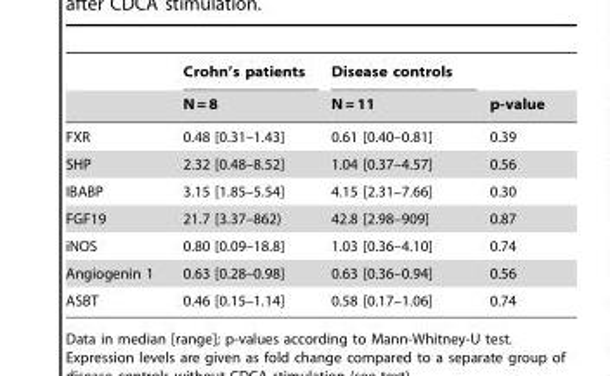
<table><thead><tr><td rowspan="2"></td><td rowspan="2">Crohn’s patients N = 8</td><td rowspan="2">Disease controls N = 11</td><td rowspan="2">p-value</td></tr><tr></tr></thead><tbody><tr><td>FXR</td><td>0.48 [0.31–1.43]</td><td>0.61 [0.40–0.81]</td><td>0.39</td></tr><tr><td>SHP</td><td>2.32 [0.48–8.52]</td><td>1.04 [0.37–4.57]</td><td>0.56</td></tr><tr><td>IBABP</td><td>3.15 [1.85–5.54]</td><td>4.15 [2.31–7.66]</td><td>0.30</td></tr><tr><td>FGF19</td><td>21.7 [3.37–862)</td><td>42.8 [2.98–909]</td><td>0.87</td></tr><tr><td>iNOS</td><td>0.80 [0.09–18.8]</td><td>1.03 [0.36–4.10]</td><td>0.74</td></tr><tr><td>Angiogenin 1</td><td>0.63 [0.28–0.98]</td><td>0.63 [0.36–0.94]</td><td>0.56</td></tr><tr><td>ASBT</td><td>0.46 [0.15–1.14]</td><td>0.58 [0.17–1.06]</td><td>0.74</td></tr></tbody></table>